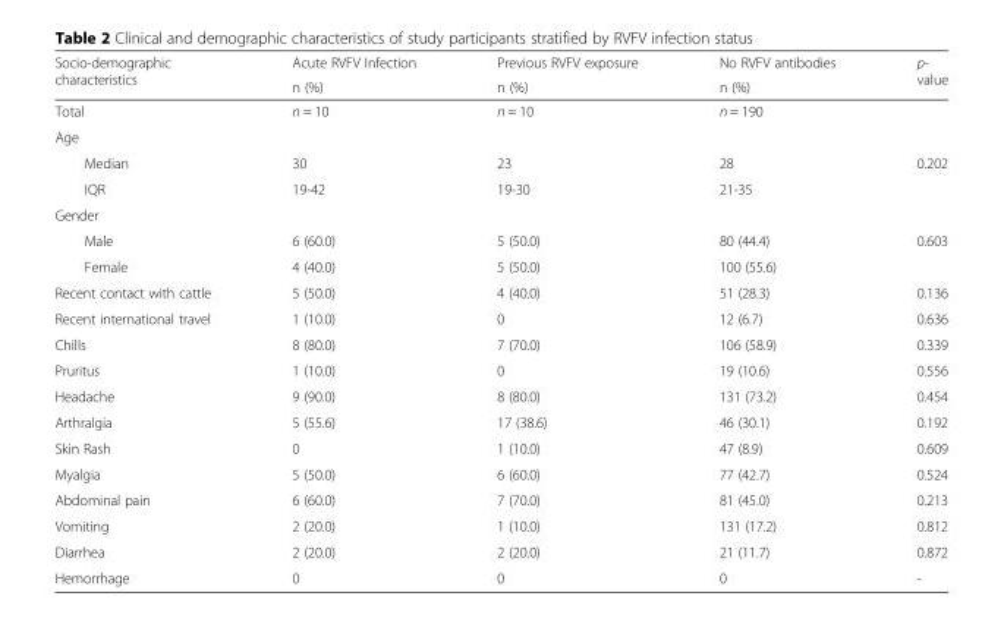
<table><thead><tr><td rowspan="2">Socio-demographic characteristics</td><td rowspan="2">Acute RVFV Infection n (%)</td><td rowspan="2">Previous RVFV exposure n (%)</td><td rowspan="2">No RVFV antibodies n (%)</td><td rowspan="2">p- value</td></tr><tr></tr></thead><tbody><tr><td>Total</td><td>n = 10</td><td>n = 10</td><td>n = 190</td><td></td></tr><tr><td colspan="5">Age</td></tr><tr><td>Median</td><td>30</td><td>23</td><td>28</td><td>0.202</td></tr><tr><td>IQR</td><td>19-42</td><td>19-30</td><td>21-35</td><td></td></tr><tr><td colspan="5">Gender</td></tr><tr><td>Male</td><td>6 (60.0)</td><td>5 (50.0)</td><td>80 (44.4)</td><td>0.603</td></tr><tr><td>Female</td><td>4 (40.0)</td><td>5 (50.0)</td><td>100 (55.6)</td><td></td></tr><tr><td>Recent contact with cattle</td><td>5 (50.0)</td><td>4 (40.0)</td><td>51 (28.3)</td><td>0.136</td></tr><tr><td>Recent international travel</td><td>1 (10.0)</td><td>0</td><td>12 (6.7)</td><td>0.636</td></tr><tr><td>Chills</td><td>8 (80.0)</td><td>7 (70.0)</td><td>106 (58.9)</td><td>0.339</td></tr><tr><td>Pruritus</td><td>1 (10.0)</td><td>0</td><td>19 (10.6)</td><td>0.556</td></tr><tr><td>Headache</td><td>9 (90.0)</td><td>8 (80.0)</td><td>131 (73.2)</td><td>0.454</td></tr><tr><td>Arthralgia</td><td>5 (55.6)</td><td>17 (38.6)</td><td>46 (30.1)</td><td>0.192</td></tr><tr><td>Skin Rash</td><td>0</td><td>1 (10.0)</td><td>47 (8.9)</td><td>0.609</td></tr><tr><td>Myalgia</td><td>5 (50.0)</td><td>6 (60.0)</td><td>77 (42.7)</td><td>0.524</td></tr><tr><td>Abdominal pain</td><td>6 (60.0)</td><td>7 (70.0)</td><td>81 (45.0)</td><td>0.213</td></tr><tr><td>Vomiting</td><td>2 (20.0)</td><td>1 (10.0)</td><td>131 (17.2)</td><td>0.812</td></tr><tr><td>Diarrhea</td><td>2 (20.0)</td><td>2 (20.0)</td><td>21 (11.7)</td><td>0.872</td></tr><tr><td>Hemorrhage</td><td>0</td><td>0</td><td>0</td><td>-</td></tr></tbody></table>